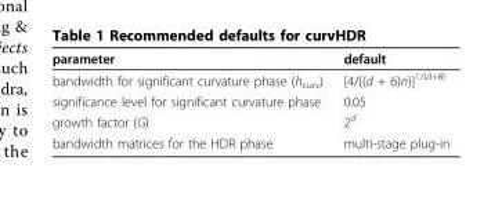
<table><thead><tr><td>parameter</td><td>default</td></tr></thead><tbody><tr><td>bandwidth for significant curvature phase (h<sub>curv</sub>)</td><td>[4/{(d + 6)n}]<sup>1/(d+8)</sup></td></tr><tr><td>significance level for significant curvature phase</td><td>0.05</td></tr><tr><td>growth factor (G)</td><td>2<sup>d</sup></td></tr><tr><td>bandwidth matrices for the HDR phase</td><td>multi-stage plug-in</td></tr></tbody></table>